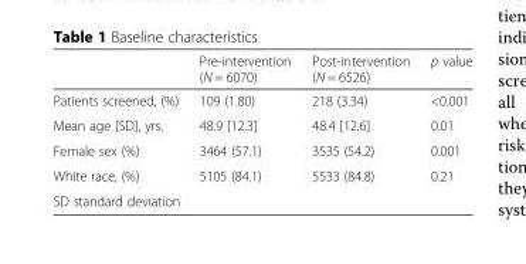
<table><thead><tr><td></td><td>Pre-intervention (N = 6070)</td><td>Post-intervention (N = 6526)</td><td>p value</td></tr></thead><tbody><tr><td>Patients screened, (%)</td><td>109 (1.80)</td><td>218 (3.34)</td><td>&lt;0.001</td></tr><tr><td>Mean age [SD], yrs.</td><td>48.9 [12.3]</td><td>48.4 [12.6]</td><td>0.01</td></tr><tr><td>Female sex (%)</td><td>3464 (57.1)</td><td>3535 (54.2)</td><td>0.001</td></tr><tr><td>White race, (%)</td><td>5105 (84.1)</td><td>5533 (84.8)</td><td>0.21</td></tr><tr><td colspan="4">SD standard deviation</td></tr></tbody></table>